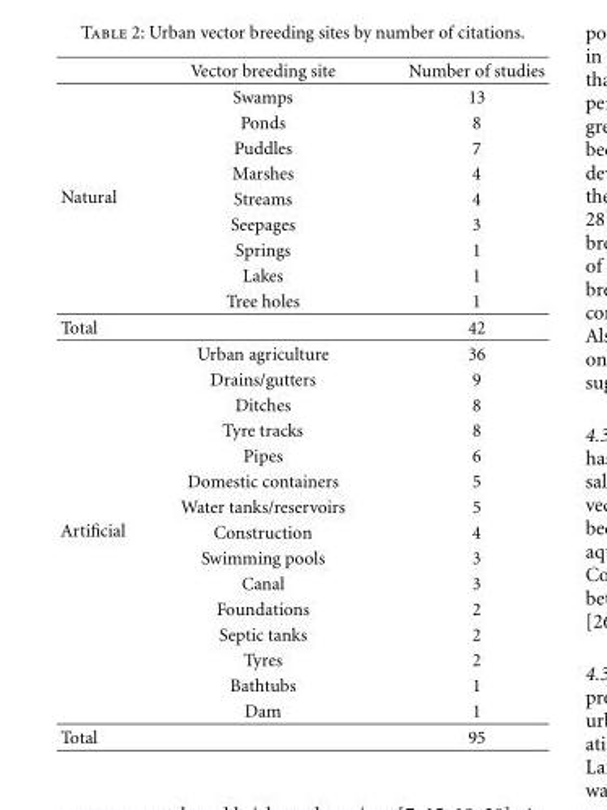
<table><thead><tr><td></td><td>Vector breeding site</td><td>Number of studies</td></tr></thead><tbody><tr><td rowspan="9">Natural</td><td>Swamps</td><td>13</td></tr><tr><td>Ponds</td><td>8</td></tr><tr><td>Puddles</td><td>7</td></tr><tr><td>Marshes</td><td>4</td></tr><tr><td>Streams</td><td>4</td></tr><tr><td>Seepages</td><td>3</td></tr><tr><td>Springs</td><td>1</td></tr><tr><td>Lakes</td><td>1</td></tr><tr><td>Tree holes</td><td>1</td></tr><tr><td>Total</td><td></td><td>42</td></tr><tr><td rowspan="15">Artificial</td><td>Urban agriculture</td><td>36</td></tr><tr><td>Drains/gutters</td><td>9</td></tr><tr><td>Ditches</td><td>8</td></tr><tr><td>Tyre tracks</td><td>8</td></tr><tr><td>Pipes</td><td>6</td></tr><tr><td>Domestic containers</td><td>5</td></tr><tr><td>Water tanks/reservoirs</td><td>5</td></tr><tr><td>Construction</td><td>4</td></tr><tr><td>Swimming pools</td><td>3</td></tr><tr><td>Canal</td><td>3</td></tr><tr><td>Foundations</td><td>2</td></tr><tr><td>Septic tanks</td><td>2</td></tr><tr><td>Tyres</td><td>2</td></tr><tr><td>Bathtubs</td><td>1</td></tr><tr><td>Dam</td><td>1</td></tr><tr><td>Total</td><td></td><td>95</td></tr></tbody></table>